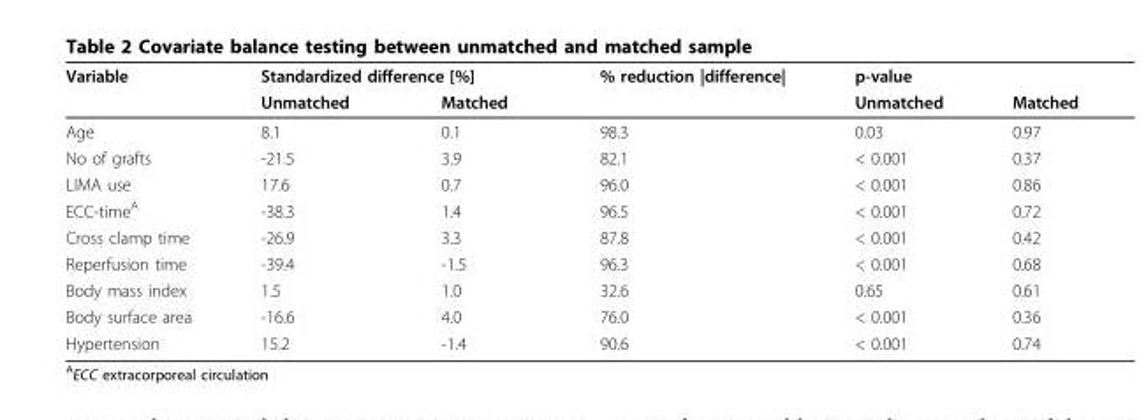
<table><thead><tr><td rowspan="2">Variable</td><td colspan="2">Standardized difference [%]</td><td rowspan="2">% reduction |difference|</td><td colspan="2">p-value</td></tr><tr><td>Unmatched</td><td>Matched</td><td>Unmatched</td><td>Matched</td></tr></thead><tbody><tr><td>Age</td><td>8.1</td><td>0.1</td><td>98.3</td><td>0.03</td><td>0.97</td></tr><tr><td>No of grafts</td><td>-21.5</td><td>3.9</td><td>82.1</td><td>&lt; 0.001</td><td>0.37</td></tr><tr><td>LIMA use</td><td>17.6</td><td>0.7</td><td>96.0</td><td>&lt; 0.001</td><td>0.86</td></tr><tr><td>ECC-time<sup>A</sup></td><td>-38.3</td><td>1.4</td><td>96.5</td><td>&lt; 0.001</td><td>0.72</td></tr><tr><td>Cross clamp time</td><td>-26.9</td><td>3.3</td><td>87.8</td><td>&lt; 0.001</td><td>0.42</td></tr><tr><td>Reperfusion time</td><td>-39.4</td><td>-1.5</td><td>96.3</td><td>&lt; 0.001</td><td>0.68</td></tr><tr><td>Body mass index</td><td>1.5</td><td>1.0</td><td>32.6</td><td>0.65</td><td>0.61</td></tr><tr><td>Body surface area</td><td>-16.6</td><td>4.0</td><td>76.0</td><td>&lt; 0.001</td><td>0.36</td></tr><tr><td>Hypertension</td><td>15.2</td><td>-1.4</td><td>90.6</td><td>&lt; 0.001</td><td>0.74</td></tr></tbody></table>